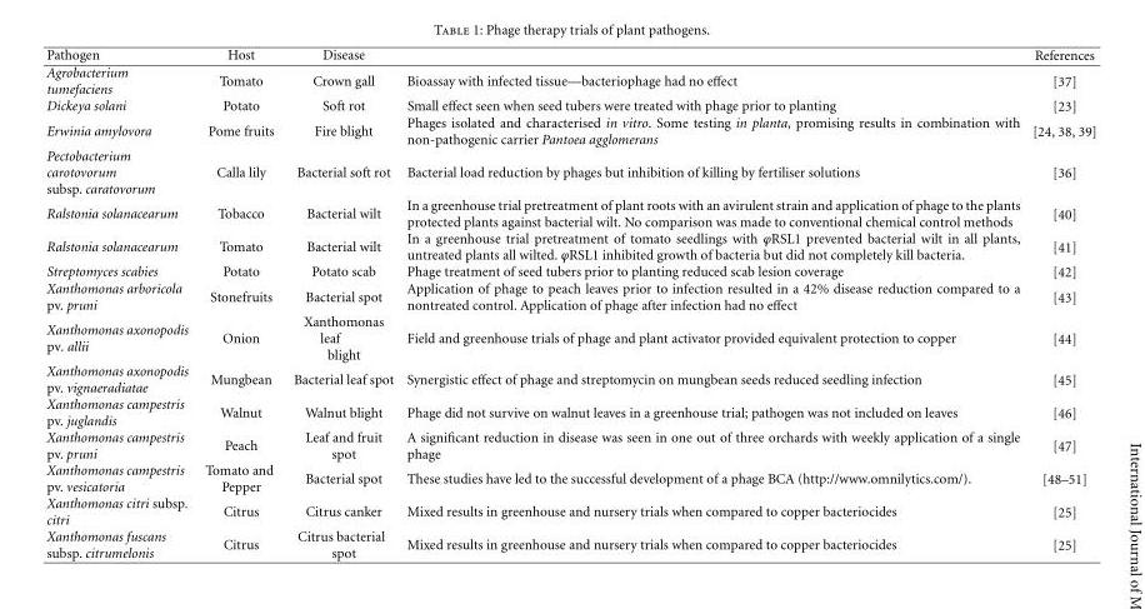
<table><thead><tr><td>Pathogen</td><td>Host</td><td>Disease</td><td></td><td>References</td></tr></thead><tbody><tr><td>Agrobacterium tumefaciens</td><td>Tomato</td><td>Crown gall</td><td>Bioassay with infected tissue—bacteriophage had no effect</td><td>[37]</td></tr><tr><td>Dickeya solani</td><td>Potato</td><td>Soft rot</td><td>Small effect seen when seed tubers were treated with phage prior to planting</td><td>[23]</td></tr><tr><td>Erwinia amylovora</td><td>Pome fruits</td><td>Fire blight</td><td>Phages isolated and characterised in vitro. Some testing in planta, promising results in combination with non-pathogenic carrier Pantoea agglomerans</td><td>[24, 38, 39]</td></tr><tr><td>Pectobacterium carotovorum subsp. caratovorum</td><td>Calla lily</td><td>Bacterial soft rot</td><td>Bacterial load reduction by phages but inhibition of killing by fertiliser solutions</td><td>[36]</td></tr><tr><td>Ralstonia solanacearum</td><td>Tobacco</td><td>Bacterial wilt</td><td>In a greenhouse trial pretreatment of plant roots with an avirulent strain and application of phage to the plants protected plants against bacterial wilt. No comparison was made to conventional chemical control methods</td><td>[40]</td></tr><tr><td>Ralstonia solanacearum</td><td>Tomato</td><td>Bacterial wilt</td><td>In a greenhouse trial pretreatment of tomato seedlings with ϕRSL1 prevented bacterial wilt in all plants, untreated plants all wilted. ϕRSL1 inhibited growth of bacteria but did not completely kill bacteria.</td><td>[41]</td></tr><tr><td>Streptomyces scabies</td><td>Potato</td><td>Potato scab</td><td>Phage treatment of seed tubers prior to planting reduced scab lesion coverage</td><td>[42]</td></tr><tr><td>Xanthomonas arboricola pv. pruni</td><td>Stonefruits</td><td>Bacterial spot</td><td>Application of phage to peach leaves prior to infection resulted in a 42% disease reduction compared to a nontreated control. Application of phage after infection had no effect</td><td>[43]</td></tr><tr><td>Xanthomonas axonopodis pv. allii</td><td>Onion</td><td>Xanthomonas leaf blight</td><td>Field and greenhouse trials of phage and plant activator provided equivalent protection to copper</td><td>[44]</td></tr><tr><td>Xanthomonas axonopodis pv. vignaeradiatae</td><td>Mungbean</td><td>Bacterial leaf spot</td><td>Synergistic effect of phage and streptomycin on mungbean seeds reduced seedling infection</td><td>[45]</td></tr><tr><td>Xanthomonas campestris pv. juglandis</td><td>Walnut</td><td>Walnut blight</td><td>Phage did not survive on walnut leaves in a greenhouse trial; pathogen was not included on leaves</td><td>[46]</td></tr><tr><td>Xanthomonas campestris pv. pruni</td><td>Peach</td><td>Leaf and fruit spot</td><td>A significant reduction in disease was seen in one out of three orchards with weekly application of a single phage</td><td>[47]</td></tr><tr><td>Xanthomonas campestris pv. vesicatoria</td><td>Tomato and Pepper</td><td>Bacterial spot</td><td>These studies have led to the successful development of a phage BCA (http://www.omnilytics.com/).</td><td>[48–51]</td></tr><tr><td>Xanthomonas citri subsp. citri</td><td>Citrus</td><td>Citrus canker</td><td>Mixed results in greenhouse and nursery trials when compared to copper bacteriocides</td><td>[25]</td></tr><tr><td>Xanthomonas fuscans subsp. citrumelonis</td><td>Citrus</td><td>Citrus bacterial spot</td><td>Mixed results in greenhouse and nursery trials when compared to copper bacteriocides</td><td>[25]</td></tr></tbody></table>